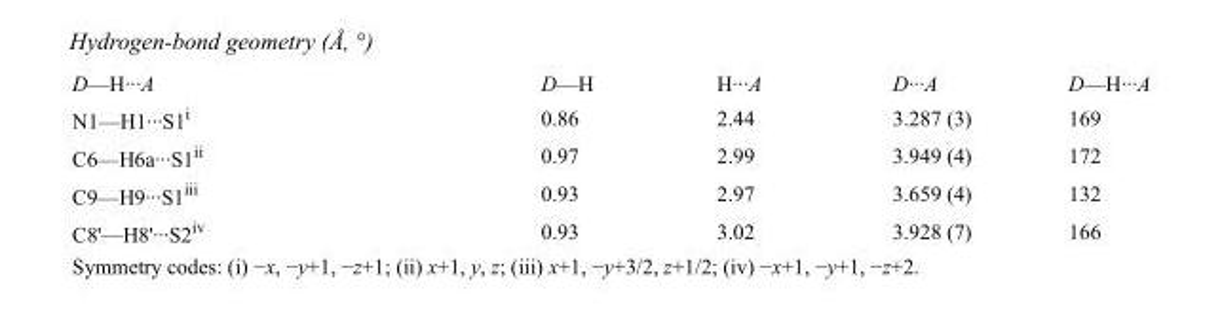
<table><tbody><tr><td>D—H···A</td><td>D—H</td><td>H···A</td><td>D···A</td><td>D—H···A</td></tr><tr><td>N1—H1···S1<sup>i</sup></td><td>0.86</td><td>2.44</td><td>3.287 (3)</td><td>169</td></tr><tr><td>C6—H6a···S1<sup>ii</sup></td><td>0.97</td><td>2.99</td><td>3.949 (4)</td><td>172</td></tr><tr><td>C9—H9···S1<sup>iii</sup></td><td>0.93</td><td>2.97</td><td>3.659 (4)</td><td>132</td></tr><tr><td>C8&#x27;—H8&#x27;···S2<sup>iv</sup></td><td>0.93</td><td>3.02</td><td>3.928 (7)</td><td>166</td></tr></tbody></table>